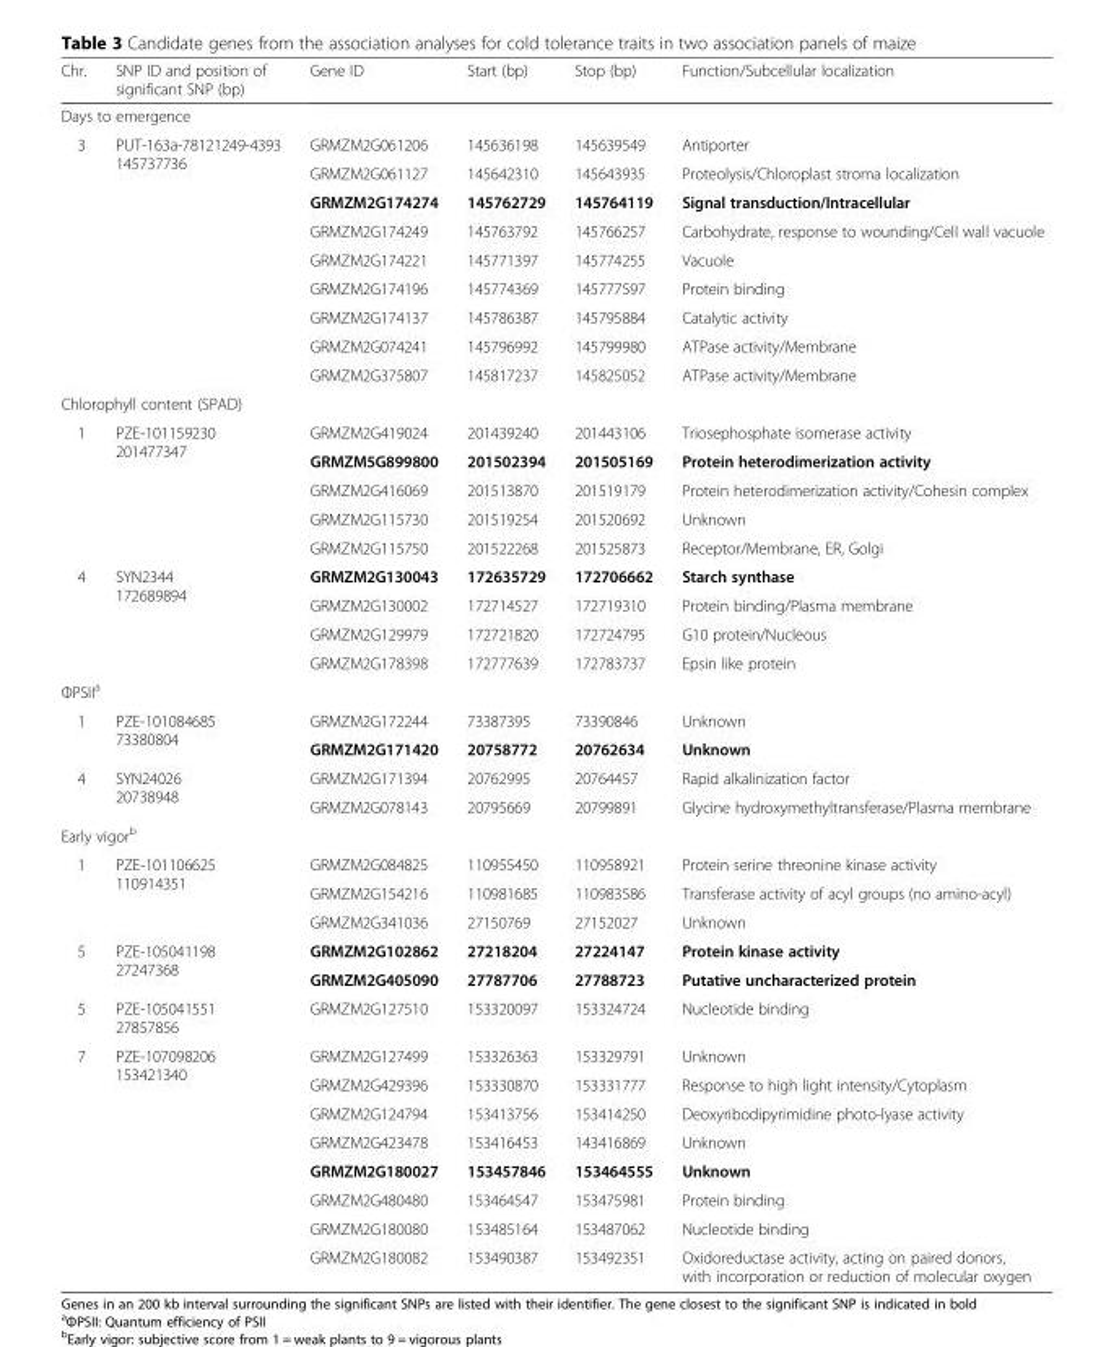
<table><thead><tr><td>Chr.</td><td>SNP ID and position of significant SNP (bp)</td><td>Gene ID</td><td>Start (bp)</td><td>Stop (bp)</td><td>Function/Subcellular localization</td></tr></thead><tbody><tr><td colspan="6">Days to emergence</td></tr><tr><td rowspan="9">3</td><td rowspan="9">PUT-163a-78121249-4393 145737736</td><td>GRMZM2G061206</td><td>145636198</td><td>145639549</td><td>Antiporter</td></tr><tr><td>GRMZM2G061127</td><td>145642310</td><td>145643935</td><td>Proteolysis/Chloroplast stroma localization</td></tr><tr><td>GRMZM2G174274</td><td>145762729</td><td>145764119</td><td>Signal transduction/Intracellular</td></tr><tr><td>GRMZM2G174249</td><td>145763792</td><td>145766257</td><td>Carbohydrate, response to wounding/Cell wall vacuole</td></tr><tr><td>GRMZM2G174221</td><td>145771397</td><td>145774255</td><td>Vacuole</td></tr><tr><td>GRMZM2G174196</td><td>145774369</td><td>145777597</td><td>Protein binding</td></tr><tr><td>GRMZM2G174137</td><td>145786387</td><td>145795884</td><td>Catalytic activity</td></tr><tr><td>GRMZM2G074241</td><td>145796992</td><td>145799980</td><td>ATPase activity/Membrane</td></tr><tr><td>GRMZM2G375807</td><td>145817237</td><td>145825052</td><td>ATPase activity/Membrane</td></tr><tr><td colspan="6">Chlorophyll content (SPAD)</td></tr><tr><td rowspan="5">1</td><td rowspan="5">PZE-101159230 201477347</td><td>GRMZM2G419024</td><td>201439240</td><td>201443106</td><td>Triosephosphate isomerase activity</td></tr><tr><td>GRMZM5G899800</td><td>201502394</td><td>201505169</td><td>Protein heterodimerization activity</td></tr><tr><td>GRMZM2G416069</td><td>201513870</td><td>201519179</td><td>Protein heterodimerization activity/Cohesin complex</td></tr><tr><td>GRMZM2G115730</td><td>201519254</td><td>201520692</td><td>Unknown</td></tr><tr><td>GRMZM2G115750</td><td>201522268</td><td>201525873</td><td>Receptor/Membrane, ER, Golgi</td></tr><tr><td rowspan="4">4</td><td rowspan="4">SYN2344 172689894</td><td>GRMZM2G130043</td><td>172635729</td><td>172706662</td><td>Starch synthase</td></tr><tr><td>GRMZM2G130002</td><td>172714527</td><td>172719310</td><td>Protein binding/Plasma membrane</td></tr><tr><td>GRMZM2G129979</td><td>172721820</td><td>172724795</td><td>G10 protein/Nucleous</td></tr><tr><td>GRMZM2G178398</td><td>172777639</td><td>172783737</td><td>Epsin like protein</td></tr><tr><td colspan="6">ΦPSII<sup>a</sup></td></tr><tr><td rowspan="2">1</td><td rowspan="2">PZE-101084685 73380804</td><td>GRMZM2G172244</td><td>73387395</td><td>73390846</td><td>Unknown</td></tr><tr><td>GRMZM2G171420</td><td>20758772</td><td>20762634</td><td>Unknown</td></tr><tr><td rowspan="2">4</td><td rowspan="2">SYN24026 20738948</td><td>GRMZM2G171394</td><td>20762995</td><td>20764457</td><td>Rapid alkalinization factor</td></tr><tr><td>GRMZM2G078143</td><td>20795669</td><td>20799891</td><td>Glycine hydroxymethyltransferase/Plasma membrane</td></tr><tr><td colspan="6">Early vigor<sup>b</sup></td></tr><tr><td rowspan="3">1</td><td rowspan="3">PZE-101106625 110914351</td><td>GRMZM2G084825</td><td>110955450</td><td>110958921</td><td>Protein serine threonine kinase activity</td></tr><tr><td>GRMZM2G154216</td><td>110981685</td><td>110983586</td><td>Transferase activity of acyl groups (no amino-acyl)</td></tr><tr><td>GRMZM2G341036</td><td>27150769</td><td>27152027</td><td>Unknown</td></tr><tr><td rowspan="2">5</td><td rowspan="2">PZE-105041198 27247368</td><td>GRMZM2G102862</td><td>27218204</td><td>27224147</td><td>Protein kinase activity</td></tr><tr><td>GRMZM2G405090</td><td>27787706</td><td>27788723</td><td>Putative uncharacterized protein</td></tr><tr><td>5</td><td>PZE-105041551 27857856</td><td>GRMZM2G127510</td><td>153320097</td><td>153324724</td><td>Nucleotide binding</td></tr><tr><td rowspan="8">7</td><td rowspan="8">PZE-107098206 153421340</td><td>GRMZM2G127499</td><td>153326363</td><td>153329791</td><td>Unknown</td></tr><tr><td>GRMZM2G429396</td><td>153330870</td><td>153331777</td><td>Response to high light intensity/Cytoplasm</td></tr><tr><td>GRMZM2G124794</td><td>153413756</td><td>153414250</td><td>Deoxyribodipyrimidine photo-lyase activity</td></tr><tr><td>GRMZM2G423478</td><td>153416453</td><td>143416869</td><td>Unknown</td></tr><tr><td>GRMZM2G180027</td><td>153457846</td><td>153464555</td><td>Unknown</td></tr><tr><td>GRMZM2G480480</td><td>153464547</td><td>153475981</td><td>Protein binding</td></tr><tr><td>GRMZM2G180080</td><td>153485164</td><td>153487062</td><td>Nucleotide binding</td></tr><tr><td>GRMZM2G180082</td><td>153490387</td><td>153492351</td><td>Oxidoreductase activity, acting on paired donors, with incorporation or reduction of molecular oxygen</td></tr></tbody></table>